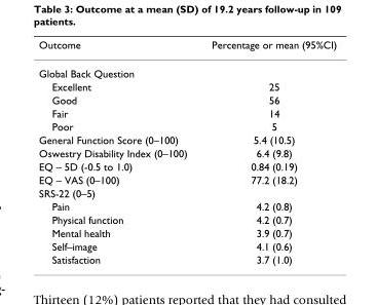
<table><thead><tr><td>Outcome</td><td>Percentage or mean (95%CI)</td></tr></thead><tbody><tr><td colspan="2">Global Back Question</td></tr><tr><td>Excellent</td><td>25</td></tr><tr><td>Good</td><td>56</td></tr><tr><td>Fair</td><td>14</td></tr><tr><td>Poor</td><td>5</td></tr><tr><td>General Function Score (0–100)</td><td>5.4 (10.5)</td></tr><tr><td>Oswestry Disability Index (0–100)</td><td>6.4 (9.8)</td></tr><tr><td>EQ – 5D (-0.5 to 1.0)</td><td>0.84 (0.19)</td></tr><tr><td>EQ – VAS (0–100)</td><td>77.2 (18.2)</td></tr><tr><td colspan="2">SRS-22 (0–5)</td></tr><tr><td>Pain</td><td>4.2 (0.8)</td></tr><tr><td>Physical function</td><td>4.2 (0.7)</td></tr><tr><td>Mental health</td><td>3.9 (0.7)</td></tr><tr><td>Self–image</td><td>4.1 (0.6)</td></tr><tr><td>Satisfaction</td><td>3.7 (1.0)</td></tr></tbody></table>